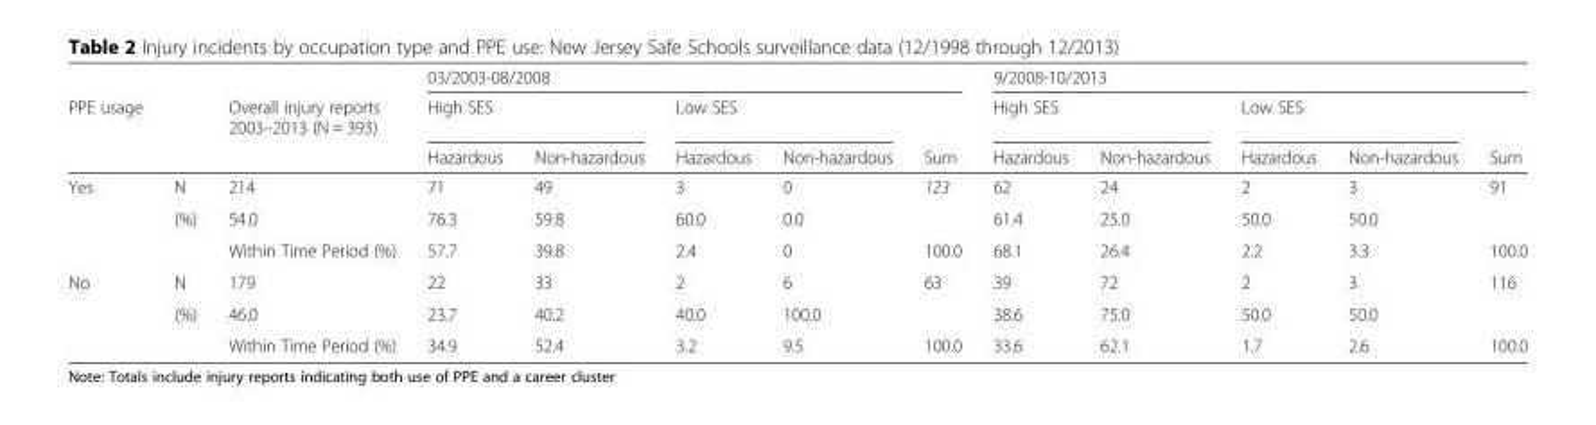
<table><thead><tr><td rowspan="3">PPE usage</td><td rowspan="3"></td><td rowspan="3">Overall injury reports 2003–2013 (N = 393)</td><td colspan="5">03/2003-08/2008</td><td colspan="5">9/2008-10/2013</td></tr><tr><td colspan="2">High SES</td><td colspan="2">Low SES</td><td rowspan="2">Sum</td><td colspan="2">High SES</td><td colspan="2">Low SES</td><td rowspan="2">Sum</td></tr><tr><td>Hazardous</td><td>Non-hazardous</td><td>Hazardous</td><td>Non-hazardous</td><td>Hazardous</td><td>Non-hazardous</td><td>Hazardous</td><td>Non-hazardous</td></tr></thead><tbody><tr><td rowspan="3">Yes</td><td>N</td><td>214</td><td>71</td><td>49</td><td>3</td><td>0</td><td>123</td><td>62</td><td>24</td><td>2</td><td>3</td><td>91</td></tr><tr><td>(%)</td><td>54.0</td><td>76.3</td><td>59.8</td><td>60.0</td><td>0.0</td><td></td><td>61.4</td><td>25.0</td><td>50.0</td><td>50.0</td><td></td></tr><tr><td></td><td>Within Time Period (%)</td><td>57.7</td><td>39.8</td><td>2.4</td><td>0</td><td>100.0</td><td>68.1</td><td>26.4</td><td>2.2</td><td>3.3</td><td>100.0</td></tr><tr><td rowspan="3">No</td><td>N</td><td>179</td><td>22</td><td>33</td><td>2</td><td>6</td><td>63</td><td>39</td><td>72</td><td>2</td><td>3</td><td>116</td></tr><tr><td>(%)</td><td>46.0</td><td>23.7</td><td>40.2</td><td>40.0</td><td>100.0</td><td></td><td>38.6</td><td>75.0</td><td>50.0</td><td>50.0</td><td></td></tr><tr><td></td><td>Within Time Period (%)</td><td>34.9</td><td>52.4</td><td>3.2</td><td>9.5</td><td>100.0</td><td>33.6</td><td>62.1</td><td>1.7</td><td>2.6</td><td>100.0</td></tr></tbody></table>